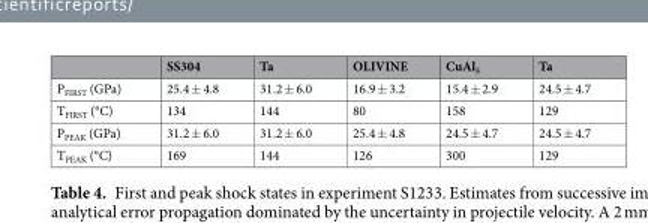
<table><thead><tr><td></td><td>SS304</td><td>Ta</td><td>OLIVINE</td><td>CuAl<sub>5</sub></td><td>Ta</td></tr></thead><tbody><tr><td>P<sub>FIRST</sub> (GPa)</td><td>25.4 ± 4.8</td><td>31.2 ± 6.0</td><td>16.9 ± 3.2</td><td>15.4 ± 2.9</td><td>24.5 ± 4.7</td></tr><tr><td>T<sub>FIRST</sub> (°C)</td><td>134</td><td>144</td><td>80</td><td>158</td><td>129</td></tr><tr><td>P<sub>PEAK</sub> (GPa)</td><td>31.2 ± 6.0</td><td>31.2 ± 6.0</td><td>25.4 ± 4.8</td><td>24.5 ± 4.7</td><td>24.5 ± 4.7</td></tr><tr><td>T<sub>PEAK</sub> (°C)</td><td>169</td><td>144</td><td>126</td><td>300</td><td>129</td></tr></tbody></table>